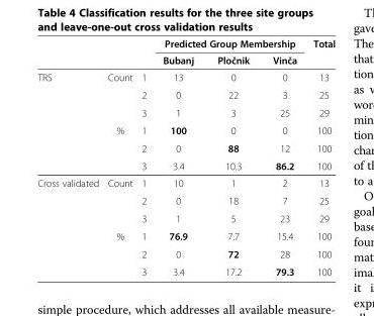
<table><thead><tr><td rowspan="2"></td><td rowspan="2"></td><td rowspan="2"></td><td colspan="3">Predicted Group Membership</td><td rowspan="2">Total</td></tr><tr><td>Bubanj</td><td>Pločnik</td><td>Vinča</td></tr></thead><tbody><tr><td rowspan="6">TRS</td><td>Count</td><td>1</td><td>13</td><td>0</td><td>0</td><td>13</td></tr><tr><td></td><td>2</td><td>0</td><td>22</td><td>3</td><td>25</td></tr><tr><td></td><td>3</td><td>1</td><td>3</td><td>25</td><td>29</td></tr><tr><td>%</td><td>1</td><td>100</td><td>0</td><td>0</td><td>100</td></tr><tr><td></td><td>2</td><td>0</td><td>88</td><td>12</td><td>100</td></tr><tr><td></td><td>3</td><td>3.4</td><td>10.3</td><td>86.2</td><td>100</td></tr><tr><td rowspan="6">Cross validated</td><td>Count</td><td>1</td><td>10</td><td>1</td><td>2</td><td>13</td></tr><tr><td></td><td>2</td><td>0</td><td>18</td><td>7</td><td>25</td></tr><tr><td></td><td>3</td><td>1</td><td>5</td><td>23</td><td>29</td></tr><tr><td>%</td><td>1</td><td>76.9</td><td>7.7</td><td>15.4</td><td>100</td></tr><tr><td></td><td>2</td><td>0</td><td>72</td><td>28</td><td>100</td></tr><tr><td></td><td>3</td><td>3.4</td><td>17.2</td><td>79.3</td><td>100</td></tr></tbody></table>